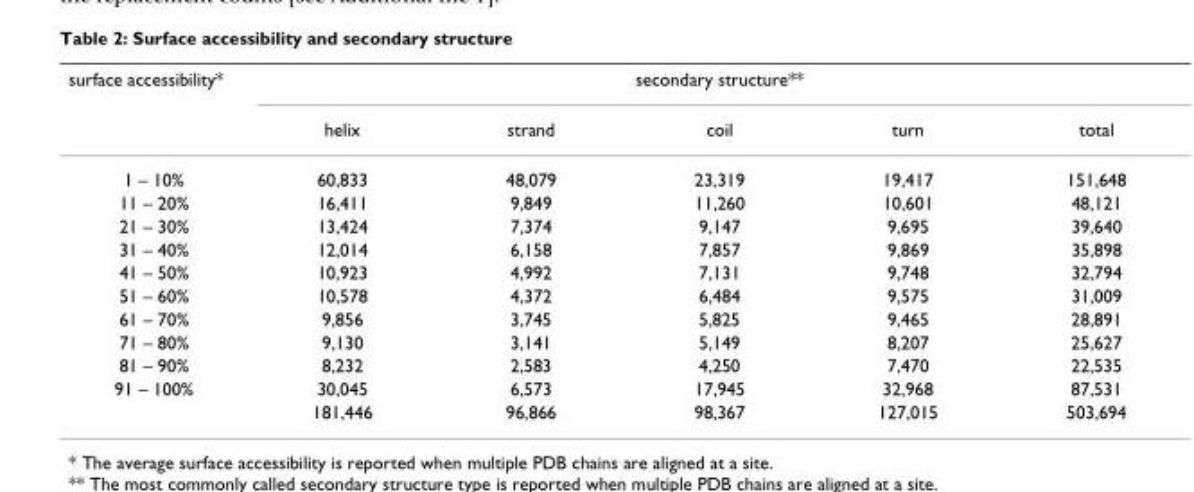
<table><thead><tr><td rowspan="2">surface accessibility*</td><td colspan="5">secondary structure**</td></tr><tr><td>helix</td><td>strand</td><td>coil</td><td>turn</td><td>total</td></tr></thead><tbody><tr><td>1 – 10%</td><td>60,833</td><td>48,079</td><td>23,319</td><td>19,417</td><td>151,648</td></tr><tr><td>11 – 20%</td><td>16,411</td><td>9,849</td><td>11,260</td><td>10,601</td><td>48,121</td></tr><tr><td>21 – 30%</td><td>13,424</td><td>7,374</td><td>9,147</td><td>9,695</td><td>39,640</td></tr><tr><td>31 – 40%</td><td>12,014</td><td>6,158</td><td>7,857</td><td>9,869</td><td>35,898</td></tr><tr><td>41 – 50%</td><td>10,923</td><td>4,992</td><td>7,131</td><td>9,748</td><td>32,794</td></tr><tr><td>51 – 60%</td><td>10,578</td><td>4,372</td><td>6,484</td><td>9,575</td><td>31,009</td></tr><tr><td>61 – 70%</td><td>9,856</td><td>3,745</td><td>5,825</td><td>9,465</td><td>28,891</td></tr><tr><td>71 – 80%</td><td>9,130</td><td>3,141</td><td>5,149</td><td>8,207</td><td>25,627</td></tr><tr><td>81 – 90%</td><td>8,232</td><td>2,583</td><td>4,250</td><td>7,470</td><td>22,535</td></tr><tr><td rowspan="2">91 – 100%</td><td>30,045</td><td>6,573</td><td>17,945</td><td>32,968</td><td>87,531</td></tr><tr><td>181,446</td><td>96,866</td><td>98,367</td><td>127,015</td><td>503,694</td></tr></tbody></table>